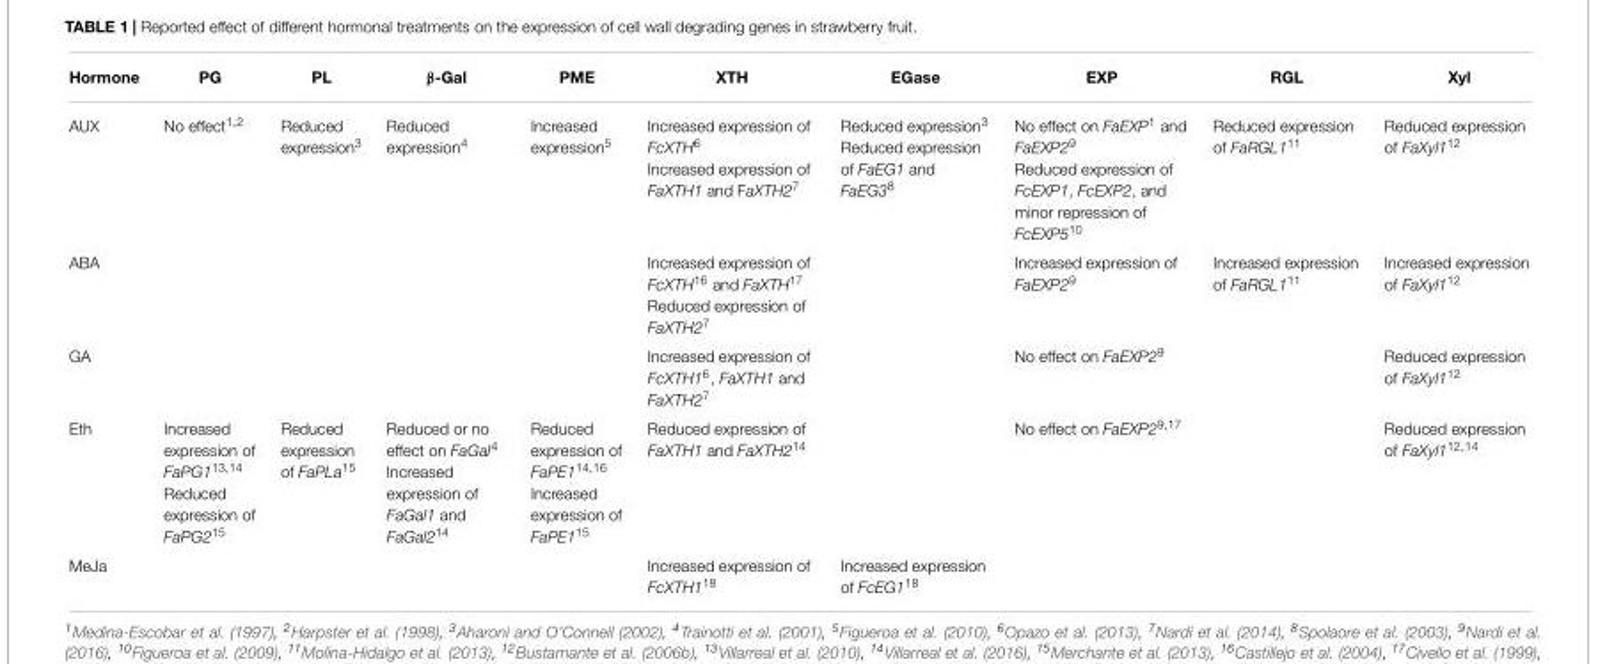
<table><thead><tr><td>Hormone</td><td>PG</td><td>PL</td><td>β-Gal</td><td>PME</td><td>XTH</td><td>EGase</td><td>EXP</td><td>RGL</td><td>Xyl</td></tr></thead><tbody><tr><td>AUX</td><td>No effect<sup>1,2</sup></td><td>Reduced expression<sup>3</sup></td><td>Reduced expression<sup>4</sup></td><td>Increased expression<sup>5</sup></td><td>Increased expression of FcXTH<sup>6</sup> Increased expression of FaXTH1 and FaXTH2<sup>7</sup></td><td>Reduced expression<sup>3</sup> Reduced expression of FaEG1 and FaEG3<sup>8</sup></td><td>No effect on FaEXP<sup>1</sup> and FaEXP2<sup>9</sup> Reduced expression of FcEXP1, FcEXP2, and minor repression of FcEXP5<sup>10</sup></td><td>Reduced expression of FaRGL1<sup>11</sup></td><td>Reduced expression of FaXyl1<sup>12</sup></td></tr><tr><td>ABA</td><td></td><td></td><td></td><td></td><td>Increased expression of FcXTH16 and FaXTH17 Reduced expression of FaXTH27</td><td></td><td>Increased expression of FaEXP2<sup>9</sup></td><td>Increased expression of FaRGL1<sup>11</sup></td><td>Increased expression of FaXyl1<sup>12</sup></td></tr><tr><td>GA</td><td></td><td></td><td></td><td></td><td>Increased expression of FcXTH1<sup>6</sup>, FaXTH1 and FaXTH2<sup>7</sup></td><td></td><td>No effect on FaEXP2<sup>9</sup></td><td></td><td>Reduced expression of FaXyl1<sup>12</sup></td></tr><tr><td>Eth</td><td>Increased expression of FaPG1<sup>13,14</sup> Reduced expression of FaPG2<sup>15</sup></td><td>Reduced expression of FaPLa<sup>15</sup></td><td>Reduced or no effect on FaGal<sup>4</sup> Increased expression of FaGal1 and FaGal2<sup>14</sup></td><td>Reduced expression of FaPE1<sup>14,16</sup> Increased expression of FaPE1<sup>15</sup></td><td>Reduced expression of FaXTH1 and FaXTH2<sup>14</sup></td><td></td><td>No effect on FaEXP2<sup>9,17</sup></td><td></td><td>Reduced expression of FaXyl1<sup>12,14</sup></td></tr><tr><td>MeJa</td><td></td><td></td><td></td><td></td><td>Increased expression of FcXTH1<sup>18</sup></td><td>Increased expression of FcEG1<sup>18</sup></td><td></td><td></td><td></td></tr></tbody></table>